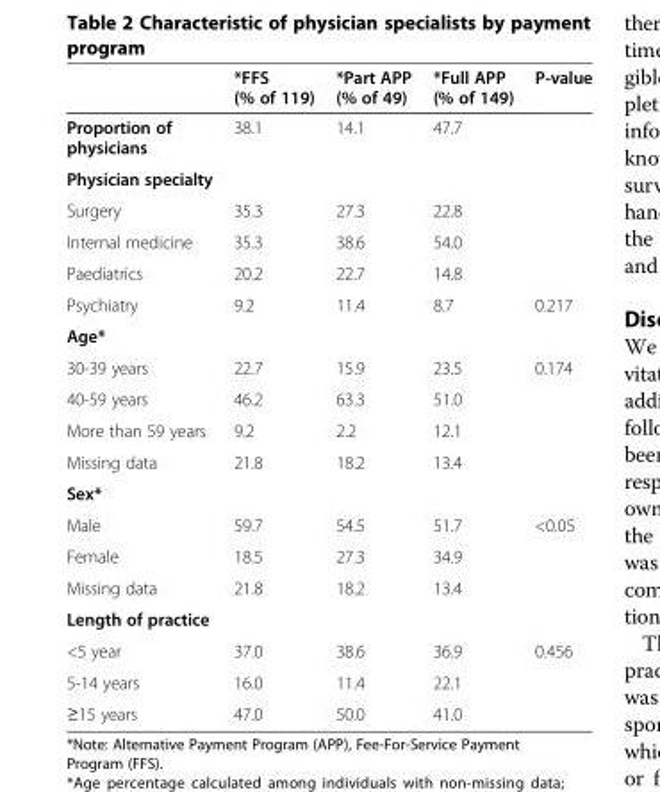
<table><thead><tr><td></td><td>*FFS (% of 119)</td><td>*Part APP (% of 49)</td><td>*Full APP (% of 149)</td><td>P-value</td></tr></thead><tbody><tr><td>Proportion of physicians</td><td>38.1</td><td>14.1</td><td>47.7</td><td></td></tr><tr><td colspan="5">Physician specialty</td></tr><tr><td>Surgery</td><td>35.3</td><td>27.3</td><td>22.8</td><td></td></tr><tr><td>Internal medicine</td><td>35.3</td><td>38.6</td><td>54.0</td><td></td></tr><tr><td>Paediatrics</td><td>20.2</td><td>22.7</td><td>14.8</td><td></td></tr><tr><td>Psychiatry</td><td>9.2</td><td>11.4</td><td>8.7</td><td>0.217</td></tr><tr><td colspan="5">Age*</td></tr><tr><td>30-39 years</td><td>22.7</td><td>15.9</td><td>23.5</td><td>0.174</td></tr><tr><td>40-59 years</td><td>46.2</td><td>63.3</td><td>51.0</td><td></td></tr><tr><td>More than 59 years</td><td>9.2</td><td>2.2</td><td>12.1</td><td></td></tr><tr><td>Missing data</td><td>21.8</td><td>18.2</td><td>13.4</td><td></td></tr><tr><td colspan="5">Sex*</td></tr><tr><td>Male</td><td>59.7</td><td>54.5</td><td>51.7</td><td>&lt;0.05</td></tr><tr><td>Female</td><td>18.5</td><td>27.3</td><td>34.9</td><td></td></tr><tr><td>Missing data</td><td>21.8</td><td>18.2</td><td>13.4</td><td></td></tr><tr><td colspan="5">Length of practice</td></tr><tr><td>&lt;5 year</td><td>37.0</td><td>38.6</td><td>36.9</td><td>0.456</td></tr><tr><td>5-14 years</td><td>16.0</td><td>11.4</td><td>22.1</td><td></td></tr><tr><td>≥15 years</td><td>47.0</td><td>50.0</td><td>41.0</td><td></td></tr></tbody></table>